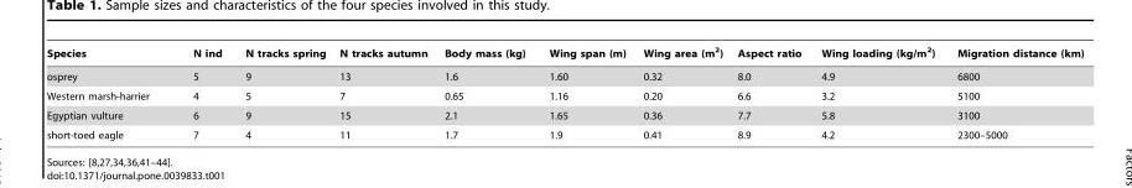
<table><thead><tr><td>Species</td><td>N ind</td><td>N tracks spring</td><td>N tracks autumn</td><td>Body mass (kg)</td><td>Wing span (m)</td><td>Wing area (m<sup>2</sup>)</td><td>Aspect ratio</td><td>Wing loading (kg/m<sup>2</sup>)</td><td>Migration distance (km)</td></tr></thead><tbody><tr><td>osprey</td><td>5</td><td>9</td><td>13</td><td>1.6</td><td>1.60</td><td>0.32</td><td>8.0</td><td>4.9</td><td>6800</td></tr><tr><td>Western marsh-harrier</td><td>4</td><td>5</td><td>7</td><td>0.65</td><td>1.16</td><td>0.20</td><td>6.6</td><td>3.2</td><td>5100</td></tr><tr><td>Egyptian vulture</td><td>6</td><td>9</td><td>15</td><td>2.1</td><td>1.65</td><td>0.36</td><td>7.7</td><td>5.8</td><td>3100</td></tr><tr><td>short-toed eagle</td><td>7</td><td>4</td><td>11</td><td>1.7</td><td>1.9</td><td>0.41</td><td>8.9</td><td>4.2</td><td>2300–5000</td></tr></tbody></table>